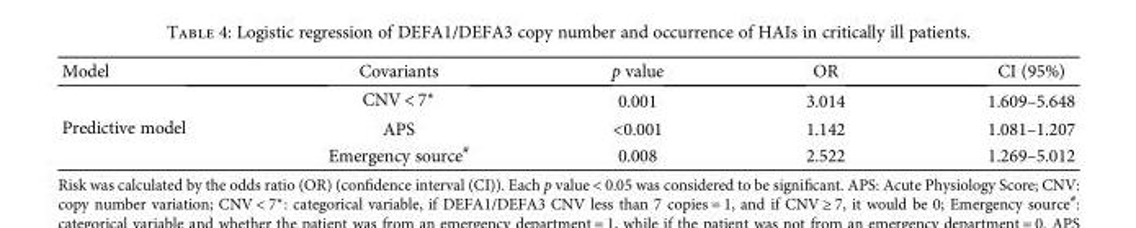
<table><thead><tr><td>Model</td><td>Covariants</td><td>p value</td><td>OR</td><td>CI (95%)</td></tr></thead><tbody><tr><td rowspan="3">Predictive model</td><td>CNV &lt; 7∗</td><td>0.001</td><td>3.014</td><td>1.609–5.648</td></tr><tr><td>APS</td><td>&lt;0.001</td><td>1.142</td><td>1.081–1.207</td></tr><tr><td>Emergency source<sup>#</sup></td><td>0.008</td><td>2.522</td><td>1.269–5.012</td></tr></tbody></table>